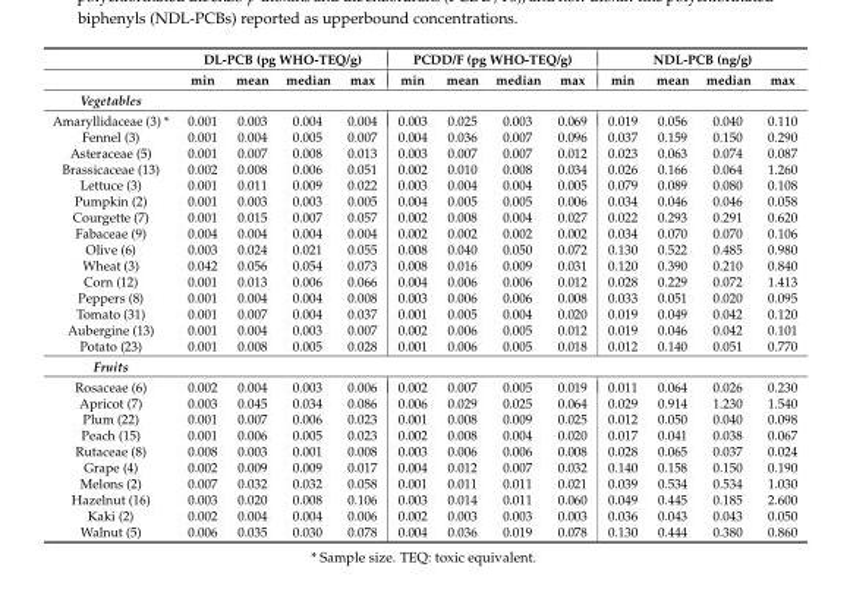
<table><thead><tr><td rowspan="2"></td><td colspan="4">DL-PCB (pg WHO-TEQ/g)</td><td colspan="4">PCDD/F (pg WHO-TEQ/g)</td><td colspan="4">NDL-PCB (ng/g)</td></tr><tr><td>min</td><td>mean</td><td>median</td><td>max</td><td>min</td><td>mean</td><td>median</td><td>max</td><td>min</td><td>mean</td><td>median</td><td>max</td></tr></thead><tbody><tr><td colspan="13">Vegetables</td></tr><tr><td>Amaryllidaceae (3) *</td><td>0.001</td><td>0.003</td><td>0.004</td><td>0.004</td><td>0.003</td><td>0.025</td><td>0.003</td><td>0.069</td><td>0.019</td><td>0.056</td><td>0.040</td><td>0.110</td></tr><tr><td>Fennel (3)</td><td>0.001</td><td>0.004</td><td>0.005</td><td>0.007</td><td>0.004</td><td>0.036</td><td>0.007</td><td>0.096</td><td>0.037</td><td>0.159</td><td>0.150</td><td>0.290</td></tr><tr><td>Asteraceae (5)</td><td>0.001</td><td>0.007</td><td>0.008</td><td>0.013</td><td>0.003</td><td>0.007</td><td>0.007</td><td>0.012</td><td>0.023</td><td>0.063</td><td>0.074</td><td>0.087</td></tr><tr><td>Brassicaceae (13)</td><td>0.002</td><td>0.008</td><td>0.006</td><td>0.051</td><td>0.002</td><td>0.010</td><td>0.008</td><td>0.034</td><td>0.026</td><td>0.166</td><td>0.064</td><td>1.260</td></tr><tr><td>Lettuce (3)</td><td>0.001</td><td>0.011</td><td>0.009</td><td>0.022</td><td>0.003</td><td>0.004</td><td>0.004</td><td>0.005</td><td>0.079</td><td>0.089</td><td>0.080</td><td>0.108</td></tr><tr><td>Pumpkin (2)</td><td>0.001</td><td>0.003</td><td>0.003</td><td>0.005</td><td>0.004</td><td>0.005</td><td>0.005</td><td>0.006</td><td>0.034</td><td>0.046</td><td>0.046</td><td>0.058</td></tr><tr><td>Courgette (7)</td><td>0.001</td><td>0.015</td><td>0.007</td><td>0.057</td><td>0.002</td><td>0.008</td><td>0.004</td><td>0.027</td><td>0.022</td><td>0.293</td><td>0.291</td><td>0.620</td></tr><tr><td>Fabaceae (9)</td><td>0.004</td><td>0.004</td><td>0.004</td><td>0.004</td><td>0.002</td><td>0.002</td><td>0.002</td><td>0.002</td><td>0.034</td><td>0.070</td><td>0.070</td><td>0.106</td></tr><tr><td>Olive (6)</td><td>0.003</td><td>0.024</td><td>0.021</td><td>0.055</td><td>0.008</td><td>0.040</td><td>0.050</td><td>0.072</td><td>0.130</td><td>0.522</td><td>0.485</td><td>0.980</td></tr><tr><td>Wheat (3)</td><td>0.042</td><td>0.056</td><td>0.054</td><td>0.073</td><td>0.008</td><td>0.016</td><td>0.009</td><td>0.031</td><td>0.120</td><td>0.390</td><td>0.210</td><td>0.840</td></tr><tr><td>Corn (12)</td><td>0.001</td><td>0.013</td><td>0.006</td><td>0.066</td><td>0.004</td><td>0.006</td><td>0.006</td><td>0.012</td><td>0.028</td><td>0.229</td><td>0.072</td><td>1.413</td></tr><tr><td>Peppers (8)</td><td>0.001</td><td>0.004</td><td>0.004</td><td>0.008</td><td>0.003</td><td>0.006</td><td>0.006</td><td>0.008</td><td>0.033</td><td>0.051</td><td>0.020</td><td>0.095</td></tr><tr><td>Tomato (31)</td><td>0.001</td><td>0.007</td><td>0.004</td><td>0.037</td><td>0.001</td><td>0.005</td><td>0.004</td><td>0.020</td><td>0.019</td><td>0.049</td><td>0.042</td><td>0.120</td></tr><tr><td>Aubergine (13)</td><td>0.001</td><td>0.004</td><td>0.003</td><td>0.007</td><td>0.002</td><td>0.006</td><td>0.005</td><td>0.012</td><td>0.019</td><td>0.046</td><td>0.042</td><td>0.101</td></tr><tr><td>Potato (23)</td><td>0.001</td><td>0.008</td><td>0.005</td><td>0.028</td><td>0.001</td><td>0.006</td><td>0.005</td><td>0.018</td><td>0.012</td><td>0.140</td><td>0.051</td><td>0.770</td></tr><tr><td colspan="13">Fruits</td></tr><tr><td>Rosaceae (6)</td><td>0.002</td><td>0.004</td><td>0.003</td><td>0.006</td><td>0.002</td><td>0.007</td><td>0.005</td><td>0.019</td><td>0.011</td><td>0.064</td><td>0.026</td><td>0.230</td></tr><tr><td>Apricot (7)</td><td>0.003</td><td>0.045</td><td>0.034</td><td>0.086</td><td>0.006</td><td>0.029</td><td>0.025</td><td>0.064</td><td>0.029</td><td>0.914</td><td>1.230</td><td>1.540</td></tr><tr><td>Plum (22)</td><td>0.001</td><td>0.007</td><td>0.006</td><td>0.023</td><td>0.001</td><td>0.008</td><td>0.009</td><td>0.025</td><td>0.012</td><td>0.050</td><td>0.040</td><td>0.098</td></tr><tr><td>Peach (15)</td><td>0.001</td><td>0.006</td><td>0.005</td><td>0.023</td><td>0.002</td><td>0.008</td><td>0.004</td><td>0.020</td><td>0.017</td><td>0.041</td><td>0.038</td><td>0.067</td></tr><tr><td>Rutaceae (8)</td><td>0.008</td><td>0.003</td><td>0.001</td><td>0.008</td><td>0.003</td><td>0.006</td><td>0.006</td><td>0.008</td><td>0.028</td><td>0.065</td><td>0.037</td><td>0.024</td></tr><tr><td>Grape (4)</td><td>0.002</td><td>0.009</td><td>0.009</td><td>0.017</td><td>0.004</td><td>0.012</td><td>0.007</td><td>0.032</td><td>0.140</td><td>0.158</td><td>0.150</td><td>0.190</td></tr><tr><td>Melons (2)</td><td>0.007</td><td>0.032</td><td>0.032</td><td>0.058</td><td>0.001</td><td>0.011</td><td>0.011</td><td>0.021</td><td>0.039</td><td>0.534</td><td>0.534</td><td>1.030</td></tr><tr><td>Hazelnut (16)</td><td>0.003</td><td>0.020</td><td>0.008</td><td>0.106</td><td>0.003</td><td>0.014</td><td>0.011</td><td>0.060</td><td>0.049</td><td>0.445</td><td>0.185</td><td>2.600</td></tr><tr><td>Kaki (2)</td><td>0.002</td><td>0.004</td><td>0.004</td><td>0.006</td><td>0.002</td><td>0.003</td><td>0.003</td><td>0.003</td><td>0.036</td><td>0.043</td><td>0.043</td><td>0.050</td></tr><tr><td>Walnut (5)</td><td>0.006</td><td>0.035</td><td>0.030</td><td>0.078</td><td>0.004</td><td>0.036</td><td>0.019</td><td>0.078</td><td>0.130</td><td>0.444</td><td>0.380</td><td>0.860</td></tr></tbody></table>